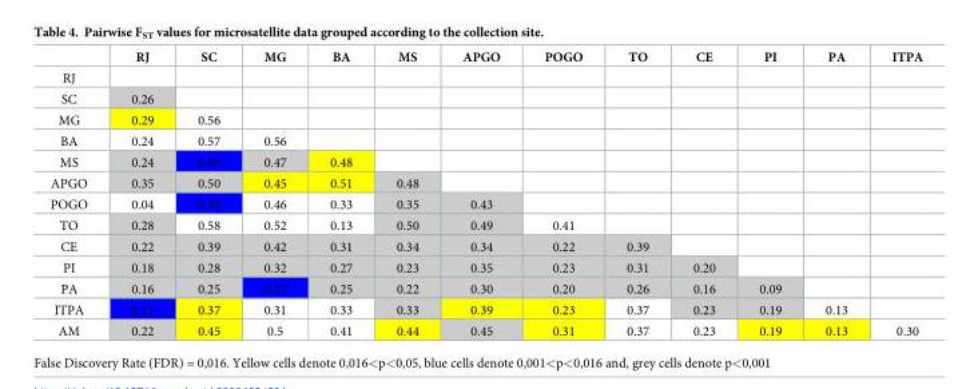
<table><thead><tr><td></td><td>RJ</td><td>SC</td><td>MG</td><td>BA</td><td>MS</td><td>APGO</td><td>POGO</td><td>TO</td><td>CE</td><td>PI</td><td>PA</td><td>ITPA</td></tr></thead><tbody><tr><td colspan="13">RJ</td></tr><tr><td>SC</td><td>0.26</td><td></td><td></td><td></td><td></td><td></td><td></td><td></td><td></td><td></td><td></td><td></td></tr><tr><td>MG</td><td>0.29</td><td>0.56</td><td></td><td></td><td></td><td></td><td></td><td></td><td></td><td></td><td></td><td></td></tr><tr><td>BA</td><td>0.24</td><td>0.57</td><td>0.56</td><td></td><td></td><td></td><td></td><td></td><td></td><td></td><td></td><td></td></tr><tr><td>MS</td><td>0.24</td><td>0.09</td><td>0.47</td><td>0.48</td><td></td><td></td><td></td><td></td><td></td><td></td><td></td><td></td></tr><tr><td>APGO</td><td>0.35</td><td>0.50</td><td>0.45</td><td>0.51</td><td>0.48</td><td></td><td></td><td></td><td></td><td></td><td></td><td></td></tr><tr><td>POGO</td><td>0.04</td><td>0.39</td><td>0.46</td><td>0.33</td><td>0.35</td><td>0.43</td><td></td><td></td><td></td><td></td><td></td><td></td></tr><tr><td>TO</td><td>0.28</td><td>0.58</td><td>0.52</td><td>0.13</td><td>0.50</td><td>0.49</td><td>0.41</td><td></td><td></td><td></td><td></td><td></td></tr><tr><td>CE</td><td>0.22</td><td>0.39</td><td>0.42</td><td>0.31</td><td>0.34</td><td>0.34</td><td>0.22</td><td>0.39</td><td></td><td></td><td></td><td></td></tr><tr><td>PI</td><td>0.18</td><td>0.28</td><td>0.32</td><td>0.27</td><td>0.23</td><td>0.35</td><td>0.23</td><td>0.31</td><td>0.20</td><td></td><td></td><td></td></tr><tr><td>PA</td><td>0.16</td><td>0.25</td><td>0.27</td><td>0.25</td><td>0.22</td><td>0.30</td><td>0.20</td><td>0.26</td><td>0.16</td><td>0.09</td><td></td><td></td></tr><tr><td>ITPA</td><td>0.17</td><td>0.37</td><td>0.31</td><td>0.33</td><td>0.33</td><td>0.39</td><td>0.23</td><td>0.37</td><td>0.23</td><td>0.19</td><td>0.13</td><td></td></tr><tr><td>AM</td><td>0.22</td><td>0.45</td><td>0.5</td><td>0.41</td><td>0.44</td><td>0.45</td><td>0.31</td><td>0.37</td><td>0.23</td><td>0.19</td><td>0.13</td><td>0.30</td></tr></tbody></table>